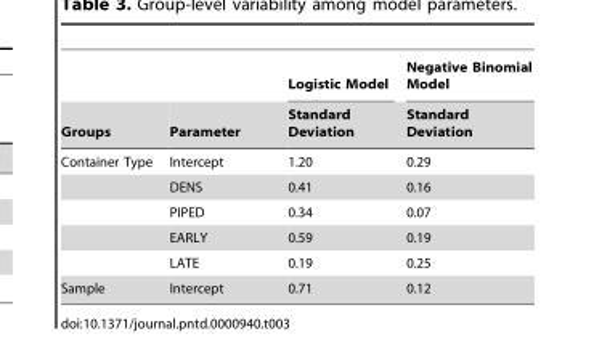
<table><thead><tr><td rowspan="2">Groups</td><td rowspan="2">Parameter</td><td rowspan="2">Logistic Model Standard Deviation</td><td rowspan="2">Negative Binomial Model Standard Deviation</td></tr><tr></tr></thead><tbody><tr><td rowspan="5">Container Type</td><td>Intercept</td><td>1.20</td><td>0.29</td></tr><tr><td>DENS</td><td>0.41</td><td>0.16</td></tr><tr><td>PIPED</td><td>0.34</td><td>0.07</td></tr><tr><td>EARLY</td><td>0.59</td><td>0.19</td></tr><tr><td>LATE</td><td>0.19</td><td>0.25</td></tr><tr><td>Sample</td><td>Intercept</td><td>0.71</td><td>0.12</td></tr></tbody></table>